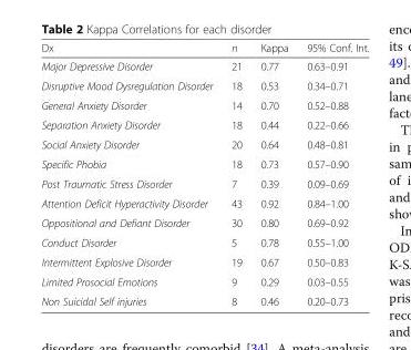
<table><thead><tr><td>Dx</td><td>n</td><td>Kappa</td><td>95% Conf. Int.</td></tr></thead><tbody><tr><td>Major Depressive Disorder</td><td>21</td><td>0.77</td><td>0.63–0.91</td></tr><tr><td>Disruptive Mood Dysregulation Disorder</td><td>18</td><td>0.53</td><td>0.34–0.71</td></tr><tr><td>General Anxiety Disorder</td><td>14</td><td>0.70</td><td>0.52–0.88</td></tr><tr><td>Separation Anxiety Disorder</td><td>18</td><td>0.44</td><td>0.22–0.66</td></tr><tr><td>Social Anxiety Disorder</td><td>20</td><td>0.64</td><td>0.48–0.81</td></tr><tr><td>Specific Phobia</td><td>18</td><td>0.73</td><td>0.57–0.90</td></tr><tr><td>Post Traumatic Stress Disorder</td><td>7</td><td>0.39</td><td>0.09–0.69</td></tr><tr><td>Attention Deficit Hyperactivity Disorder</td><td>43</td><td>0.92</td><td>0.84–1.00</td></tr><tr><td>Oppositional and Defiant Disorder</td><td>30</td><td>0.80</td><td>0.69–0.92</td></tr><tr><td>Conduct Disorder</td><td>5</td><td>0.78</td><td>0.55–1.00</td></tr><tr><td>Intermittent Explosive Disorder</td><td>19</td><td>0.67</td><td>0.50–0.83</td></tr><tr><td>Limited Prosocial Emotions</td><td>9</td><td>0.29</td><td>0.03–0.55</td></tr><tr><td>Non Suicidal Self injuries</td><td>8</td><td>0.46</td><td>0.20–0.73</td></tr></tbody></table>